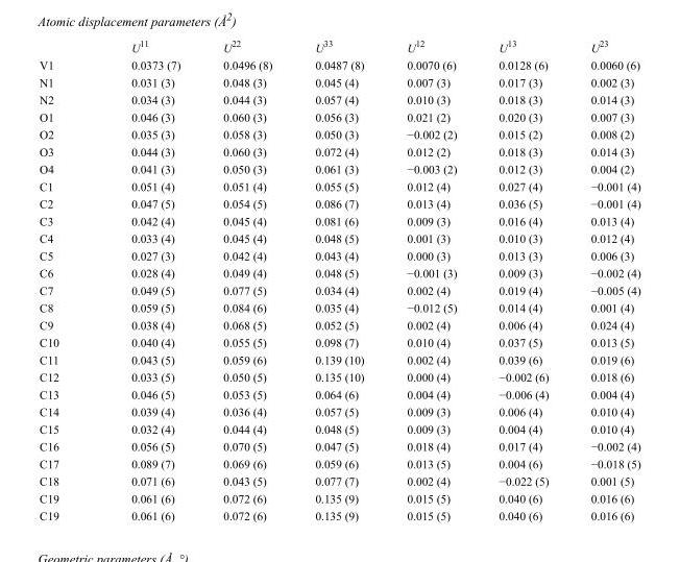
<table><thead><tr><td></td><td>U<sup>11</sup></td><td>U<sup>22</sup></td><td>U<sup>33</sup></td><td>U<sup>12</sup></td><td>U<sup>13</sup></td><td>U<sup>23</sup></td></tr></thead><tbody><tr><td>V1</td><td>0.0373 (7)</td><td>0.0496 (8)</td><td>0.0487 (8)</td><td>0.0070 (6)</td><td>0.0128 (6)</td><td>0.0060 (6)</td></tr><tr><td>N1</td><td>0.031 (3)</td><td>0.048 (3)</td><td>0.045 (4)</td><td>0.007 (3)</td><td>0.017 (3)</td><td>0.002 (3)</td></tr><tr><td>N2</td><td>0.034 (3)</td><td>0.044 (3)</td><td>0.057 (4)</td><td>0.010 (3)</td><td>0.018 (3)</td><td>0.014 (3)</td></tr><tr><td>O1</td><td>0.046 (3)</td><td>0.060 (3)</td><td>0.056 (3)</td><td>0.021 (2)</td><td>0.020 (3)</td><td>0.007 (3)</td></tr><tr><td>O2</td><td>0.035 (3)</td><td>0.058 (3)</td><td>0.050 (3)</td><td>−0.002 (2)</td><td>0.015 (2)</td><td>0.008 (2)</td></tr><tr><td>O3</td><td>0.044 (3)</td><td>0.060 (3)</td><td>0.072 (4)</td><td>0.012 (2)</td><td>0.018 (3)</td><td>0.014 (3)</td></tr><tr><td>O4</td><td>0.041 (3)</td><td>0.050 (3)</td><td>0.061 (3)</td><td>−0.003 (2)</td><td>0.012 (3)</td><td>0.004 (2)</td></tr><tr><td>C1</td><td>0.051 (4)</td><td>0.051 (4)</td><td>0.055 (5)</td><td>0.012 (4)</td><td>0.027 (4)</td><td>−0.001 (4)</td></tr><tr><td>C2</td><td>0.047 (5)</td><td>0.054 (5)</td><td>0.086 (7)</td><td>0.013 (4)</td><td>0.036 (5)</td><td>−0.001 (4)</td></tr><tr><td>C3</td><td>0.042 (4)</td><td>0.045 (4)</td><td>0.081 (6)</td><td>0.009 (3)</td><td>0.016 (4)</td><td>0.013 (4)</td></tr><tr><td>C4</td><td>0.033 (4)</td><td>0.045 (4)</td><td>0.048 (5)</td><td>0.001 (3)</td><td>0.010 (3)</td><td>0.012 (4)</td></tr><tr><td>C5</td><td>0.027 (3)</td><td>0.042 (4)</td><td>0.043 (4)</td><td>0.000 (3)</td><td>0.013 (3)</td><td>0.006 (3)</td></tr><tr><td>C6</td><td>0.028 (4)</td><td>0.049 (4)</td><td>0.048 (5)</td><td>−0.001 (3)</td><td>0.009 (3)</td><td>−0.002 (4)</td></tr><tr><td>C7</td><td>0.049 (5)</td><td>0.077 (5)</td><td>0.034 (4)</td><td>0.002 (4)</td><td>0.019 (4)</td><td>−0.005 (4)</td></tr><tr><td>C8</td><td>0.059 (5)</td><td>0.084 (6)</td><td>0.035 (4)</td><td>−0.012 (5)</td><td>0.014 (4)</td><td>0.001 (4)</td></tr><tr><td>C9</td><td>0.038 (4)</td><td>0.068 (5)</td><td>0.052 (5)</td><td>0.002 (4)</td><td>0.006 (4)</td><td>0.024 (4)</td></tr><tr><td>C10</td><td>0.040 (4)</td><td>0.055 (5)</td><td>0.098 (7)</td><td>0.010 (4)</td><td>0.037 (5)</td><td>0.013 (5)</td></tr><tr><td>C11</td><td>0.043 (5)</td><td>0.059 (6)</td><td>0.139 (10)</td><td>0.002 (4)</td><td>0.039 (6)</td><td>0.019 (6)</td></tr><tr><td>C12</td><td>0.033 (5)</td><td>0.050 (5)</td><td>0.135 (10)</td><td>0.000 (4)</td><td>−0.002 (6)</td><td>0.018 (6)</td></tr><tr><td>C13</td><td>0.046 (5)</td><td>0.053 (5)</td><td>0.064 (6)</td><td>0.004 (4)</td><td>−0.006 (4)</td><td>0.004 (4)</td></tr><tr><td>C14</td><td>0.039 (4)</td><td>0.036 (4)</td><td>0.057 (5)</td><td>0.009 (3)</td><td>0.006 (4)</td><td>0.010 (4)</td></tr><tr><td>C15</td><td>0.032 (4)</td><td>0.044 (4)</td><td>0.048 (5)</td><td>0.009 (3)</td><td>0.004 (4)</td><td>0.010 (4)</td></tr><tr><td>C16</td><td>0.056 (5)</td><td>0.070 (5)</td><td>0.047 (5)</td><td>0.018 (4)</td><td>0.017 (4)</td><td>−0.002 (4)</td></tr><tr><td>C17</td><td>0.089 (7)</td><td>0.069 (6)</td><td>0.059 (6)</td><td>0.013 (5)</td><td>0.004 (6)</td><td>−0.018 (5)</td></tr><tr><td>C18</td><td>0.071 (6)</td><td>0.043 (5)</td><td>0.077 (7)</td><td>0.002 (4)</td><td>−0.022 (5)</td><td>0.001 (5)</td></tr><tr><td>C19</td><td>0.061 (6)</td><td>0.072 (6)</td><td>0.135 (9)</td><td>0.015 (5)</td><td>0.040 (6)</td><td>0.016 (6)</td></tr><tr><td>C19</td><td>0.061 (6)</td><td>0.072 (6)</td><td>0.135 (9)</td><td>0.015 (5)</td><td>0.040 (6)</td><td>0.016 (6)</td></tr></tbody></table>